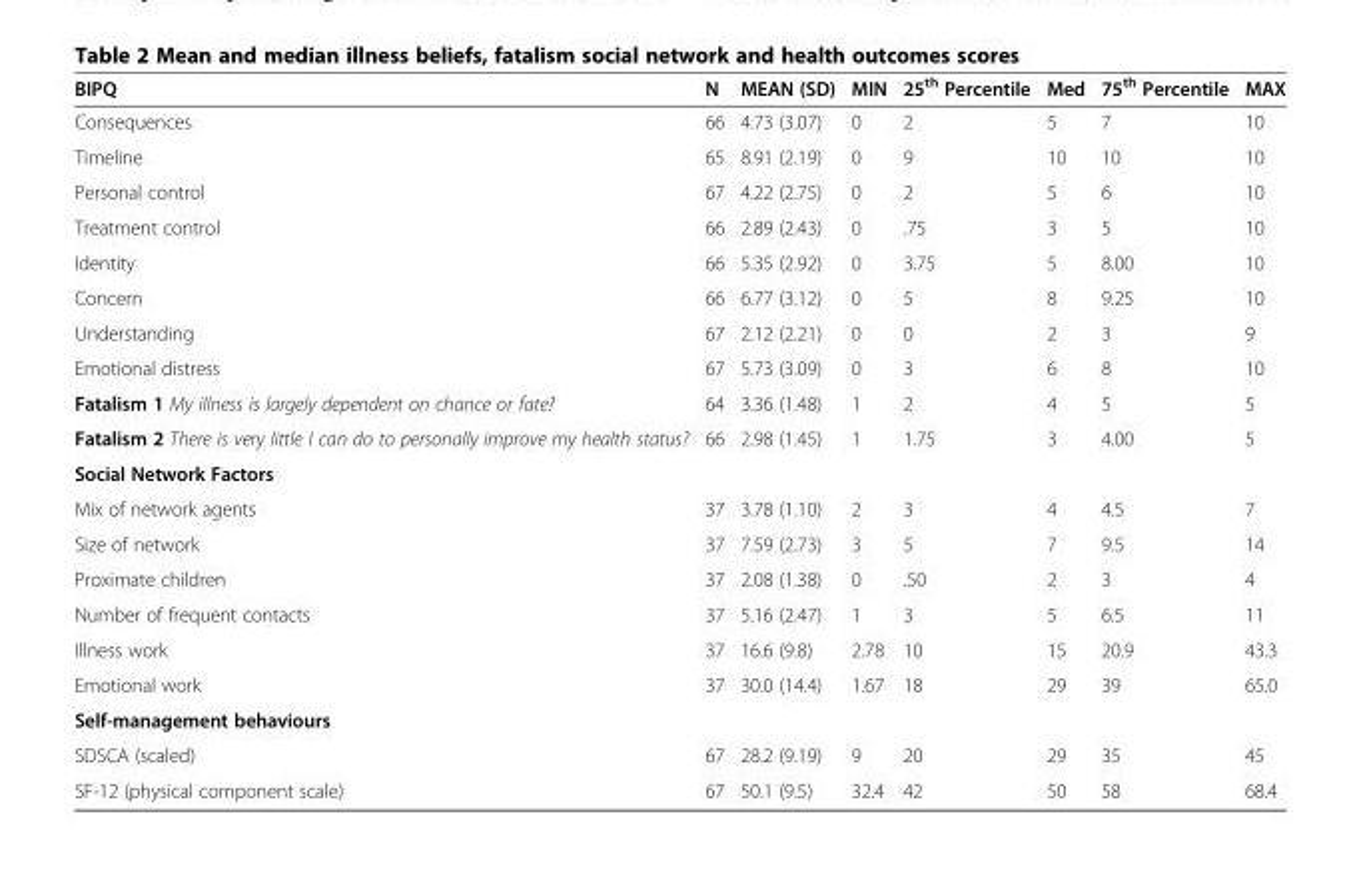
<table><thead><tr><td>BIPQ</td><td>N</td><td>MEAN (SD)</td><td>MIN</td><td>25<sup>th</sup> Percentile</td><td>Med</td><td>75<sup>th</sup> Percentile</td><td>MAX</td></tr></thead><tbody><tr><td>Consequences</td><td>66</td><td>4.73 (3.07)</td><td>0</td><td>2</td><td>5</td><td>7</td><td>10</td></tr><tr><td>Timeline</td><td>65</td><td>8.91 (2.19)</td><td>0</td><td>9</td><td>10</td><td>10</td><td>10</td></tr><tr><td>Personal control</td><td>67</td><td>4.22 (2.75)</td><td>0</td><td>2</td><td>5</td><td>6</td><td>10</td></tr><tr><td>Treatment control</td><td>66</td><td>2.89 (2.43)</td><td>0</td><td>.75</td><td>3</td><td>5</td><td>10</td></tr><tr><td>Identity</td><td>66</td><td>5.35 (2.92)</td><td>0</td><td>3.75</td><td>5</td><td>8.00</td><td>10</td></tr><tr><td>Concern</td><td>66</td><td>6.77 (3.12)</td><td>0</td><td>5</td><td>8</td><td>9.25</td><td>10</td></tr><tr><td>Understanding</td><td>67</td><td>2.12 (2.21)</td><td>0</td><td>0</td><td>2</td><td>3</td><td>9</td></tr><tr><td>Emotional distress</td><td>67</td><td>5.73 (3.09)</td><td>0</td><td>3</td><td>6</td><td>8</td><td>10</td></tr><tr><td>Fatalism 1 My illness is largely dependent on chance or fate?</td><td>64</td><td>3.36 (1.48)</td><td>1</td><td>2</td><td>4</td><td>5</td><td>5</td></tr><tr><td>Fatalism 2 There is very little I can do to personally improve my health status?</td><td>66</td><td>2.98 (1.45)</td><td>1</td><td>1.75</td><td>3</td><td>4.00</td><td>5</td></tr><tr><td colspan="8">Social Network Factors</td></tr><tr><td>Mix of network agents</td><td>37</td><td>3.78 (1.10)</td><td>2</td><td>3</td><td>4</td><td>4.5</td><td>7</td></tr><tr><td>Size of network</td><td>37</td><td>7.59 (2.73)</td><td>3</td><td>5</td><td>7</td><td>9.5</td><td>14</td></tr><tr><td>Proximate children</td><td>37</td><td>2.08 (1.38)</td><td>0</td><td>.50</td><td>2</td><td>3</td><td>4</td></tr><tr><td>Number of frequent contacts</td><td>37</td><td>5.16 (2.47)</td><td>1</td><td>3</td><td>5</td><td>6.5</td><td>11</td></tr><tr><td>Illness work</td><td>37</td><td>16.6 (9.8)</td><td>2.78</td><td>10</td><td>15</td><td>20.9</td><td>43.3</td></tr><tr><td>Emotional work</td><td>37</td><td>30.0 (14.4)</td><td>1.67</td><td>18</td><td>29</td><td>39</td><td>65.0</td></tr><tr><td colspan="8">Self-management behaviours</td></tr><tr><td>SDSCA (scaled)</td><td>67</td><td>28.2 (9.19)</td><td>9</td><td>20</td><td>29</td><td>35</td><td>45</td></tr><tr><td>SF-12 (physical component scale)</td><td>67</td><td>50.1 (9.5)</td><td>32.4</td><td>42</td><td>50</td><td>58</td><td>68.4</td></tr></tbody></table>